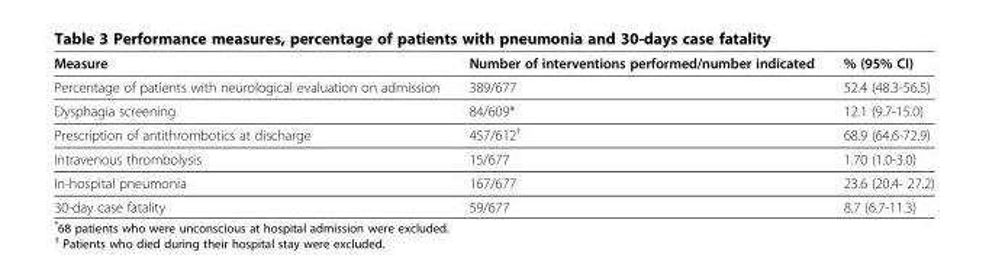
<table><thead><tr><td>Measure</td><td>Number of interventions performed/number indicated</td><td>% (95% CI)</td></tr></thead><tbody><tr><td>Percentage of patients with neurological evaluation on admission</td><td>389/677</td><td>52.4 (48.3-56.5)</td></tr><tr><td>Dysphagia screening</td><td>84/609*</td><td>12.1 (9.7-15.0)</td></tr><tr><td>Prescription of antithrombotics at discharge</td><td>457/612<sup>†</sup></td><td>68.9 (64.6-72.9)</td></tr><tr><td>Intravenous thrombolysis</td><td>15/677</td><td>1.70 (1.0-3.0)</td></tr><tr><td>In-hospital pneumonia</td><td>167/677</td><td>23.6 (20.4- 27.2)</td></tr><tr><td>30-day case fatality</td><td>59/677</td><td>8.7 (6.7-11.3)</td></tr></tbody></table>